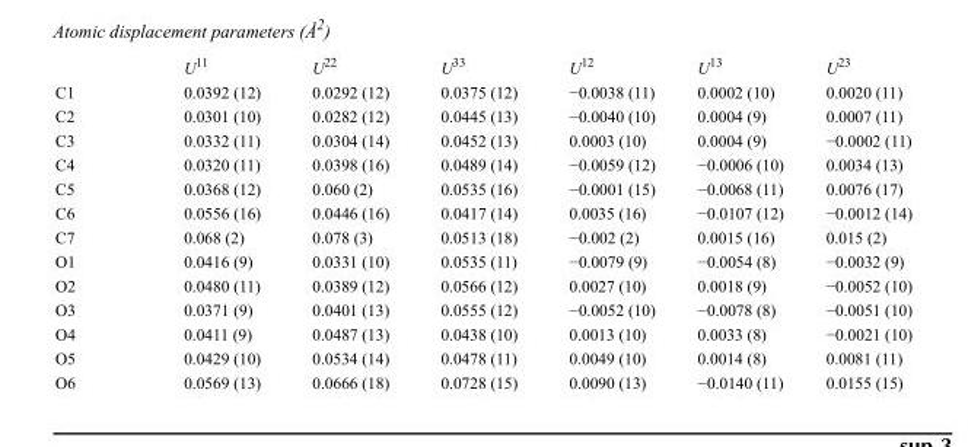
<table><thead><tr><td></td><td>U<sup>11</sup></td><td>U<sup>22</sup></td><td>U<sup>33</sup></td><td>U<sup>12</sup></td><td>U<sup>13</sup></td><td>U<sup>23</sup></td></tr></thead><tbody><tr><td>C1</td><td>0.0392 (12)</td><td>0.0292 (12)</td><td>0.0375 (12)</td><td>−0.0038 (11)</td><td>0.0002 (10)</td><td>0.0020 (11)</td></tr><tr><td>C2</td><td>0.0301 (10)</td><td>0.0282 (12)</td><td>0.0445 (13)</td><td>−0.0040 (10)</td><td>0.0004 (9)</td><td>0.0007 (11)</td></tr><tr><td>C3</td><td>0.0332 (11)</td><td>0.0304 (14)</td><td>0.0452 (13)</td><td>0.0003 (10)</td><td>0.0004 (9)</td><td>−0.0002 (11)</td></tr><tr><td>C4</td><td>0.0320 (11)</td><td>0.0398 (16)</td><td>0.0489 (14)</td><td>−0.0059 (12)</td><td>−0.0006 (10)</td><td>0.0034 (13)</td></tr><tr><td>C5</td><td>0.0368 (12)</td><td>0.060 (2)</td><td>0.0535 (16)</td><td>−0.0001 (15)</td><td>−0.0068 (11)</td><td>0.0076 (17)</td></tr><tr><td>C6</td><td>0.0556 (16)</td><td>0.0446 (16)</td><td>0.0417 (14)</td><td>0.0035 (16)</td><td>−0.0107 (12)</td><td>−0.0012 (14)</td></tr><tr><td>C7</td><td>0.068 (2)</td><td>0.078 (3)</td><td>0.0513 (18)</td><td>−0.002 (2)</td><td>0.0015 (16)</td><td>0.015 (2)</td></tr><tr><td>O1</td><td>0.0416 (9)</td><td>0.0331 (10)</td><td>0.0535 (11)</td><td>−0.0079 (9)</td><td>−0.0054 (8)</td><td>−0.0032 (9)</td></tr><tr><td>O2</td><td>0.0480 (11)</td><td>0.0389 (12)</td><td>0.0566 (12)</td><td>0.0027 (10)</td><td>0.0018 (9)</td><td>−0.0052 (10)</td></tr><tr><td>O3</td><td>0.0371 (9)</td><td>0.0401 (13)</td><td>0.0555 (12)</td><td>−0.0052 (10)</td><td>−0.0078 (8)</td><td>−0.0051 (10)</td></tr><tr><td>O4</td><td>0.0411 (9)</td><td>0.0487 (13)</td><td>0.0438 (10)</td><td>0.0013 (10)</td><td>0.0033 (8)</td><td>−0.0021 (10)</td></tr><tr><td>O5</td><td>0.0429 (10)</td><td>0.0534 (14)</td><td>0.0478 (11)</td><td>0.0049 (10)</td><td>0.0014 (8)</td><td>0.0081 (11)</td></tr><tr><td>O6</td><td>0.0569 (13)</td><td>0.0666 (18)</td><td>0.0728 (15)</td><td>0.0090 (13)</td><td>−0.0140 (11)</td><td>0.0155 (15)</td></tr></tbody></table>